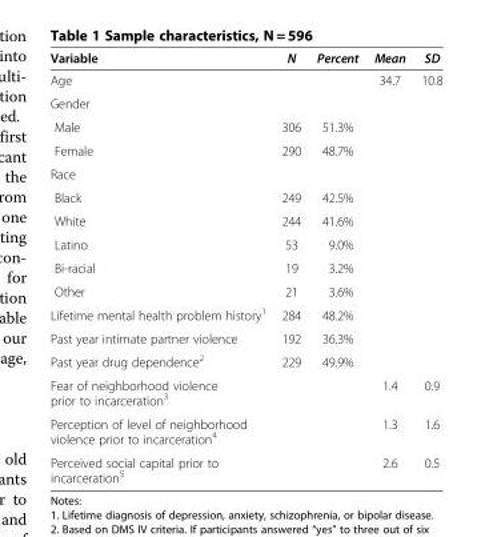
<table><thead><tr><td>Variable</td><td>N</td><td>Percent</td><td>Mean</td><td>SD</td></tr></thead><tbody><tr><td>Age</td><td></td><td></td><td>34.7</td><td>10.8</td></tr><tr><td colspan="5">Gender</td></tr><tr><td>Male</td><td>306</td><td>51.3%</td><td></td><td></td></tr><tr><td>Female</td><td>290</td><td>48.7%</td><td></td><td></td></tr><tr><td colspan="5">Race</td></tr><tr><td>Black</td><td>249</td><td>42.5%</td><td></td><td></td></tr><tr><td>White</td><td>244</td><td>41.6%</td><td></td><td></td></tr><tr><td>Latino</td><td>53</td><td>9.0%</td><td></td><td></td></tr><tr><td>Bi-racial</td><td>19</td><td>3.2%</td><td></td><td></td></tr><tr><td>Other</td><td>21</td><td>3.6%</td><td></td><td></td></tr><tr><td>Lifetime mental health problem history<sup>1</sup></td><td>284</td><td>48.2%</td><td></td><td></td></tr><tr><td>Past year intimate partner violence</td><td>192</td><td>36.3%</td><td></td><td></td></tr><tr><td>Past year drug dependence<sup>2</sup></td><td>229</td><td>49.9%</td><td></td><td></td></tr><tr><td>Fear of neighborhood violence prior to incarceration<sup>3</sup></td><td></td><td></td><td>1.4</td><td>0.9</td></tr><tr><td>Perception of level of neighborhood violence prior to incarceration<sup>4</sup></td><td></td><td></td><td>1.3</td><td>1.6</td></tr><tr><td>Perceived social capital prior to incarceration<sup>5</sup></td><td></td><td></td><td>2.6</td><td>0.5</td></tr></tbody></table>